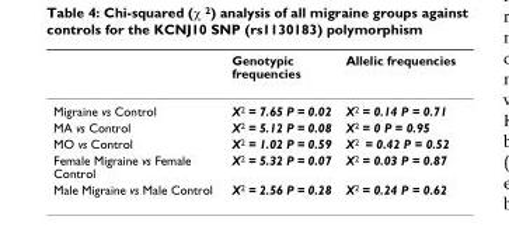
<table><thead><tr><td></td><td>Genotypic frequencies</td><td>Allelic frequencies</td></tr></thead><tbody><tr><td>Migraine vs Control</td><td>X<sup>2</sup> = 7.65 P = 0.02</td><td>X<sup>2</sup> = 0.14 P = 0.71</td></tr><tr><td>MA vs Control</td><td>X<sup>2</sup> = 5.12 P = 0.08</td><td>X<sup>2</sup> = 0 P = 0.95</td></tr><tr><td>MO vs Control</td><td>X<sup>2</sup> = 1.02 P = 0.59</td><td>X<sup>2</sup> = 0.42 P = 0.52</td></tr><tr><td>Female Migraine vs Female Control</td><td>X<sup>2</sup> = 5.32 P = 0.07</td><td>X<sup>2</sup> = 0.03 P = 0.87</td></tr><tr><td>Male Migraine vs Male Control</td><td>X<sup>2</sup> = 2.56 P = 0.28</td><td>X<sup>2</sup> = 0.24 P = 0.62</td></tr></tbody></table>